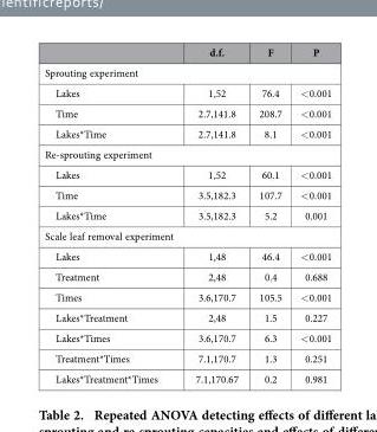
<table><thead><tr><td></td><td>d.f.</td><td>F</td><td>P</td></tr></thead><tbody><tr><td colspan="4">Sprouting experiment</td></tr><tr><td>Lakes</td><td>1,52</td><td>76.4</td><td>&lt; 0.001</td></tr><tr><td>Time</td><td>2.7,141.8</td><td>208.7</td><td>&lt; 0.001</td></tr><tr><td>Lakes*Time</td><td>2.7,141.8</td><td>8.1</td><td>&lt; 0.001</td></tr><tr><td colspan="4">Re-sprouting experiment</td></tr><tr><td>Lakes</td><td>1,52</td><td>60.1</td><td>&lt; 0.001</td></tr><tr><td>Time</td><td>3.5,182.3</td><td>107.7</td><td>&lt; 0.001</td></tr><tr><td>Lakes*Time</td><td>3.5,182.3</td><td>5.2</td><td>0.001</td></tr><tr><td colspan="4">Scale leaf removal experiment</td></tr><tr><td>Lakes</td><td>1,48</td><td>46.4</td><td>&lt; 0.001</td></tr><tr><td>Treatment</td><td>2,48</td><td>0.4</td><td>0.688</td></tr><tr><td>Times</td><td>3.6,170.7</td><td>105.5</td><td>&lt; 0.001</td></tr><tr><td>Lakes*Treatment</td><td>2,48</td><td>1.5</td><td>0.227</td></tr><tr><td>Lakes*Times</td><td>3.6,170.7</td><td>6.3</td><td>&lt; 0.001</td></tr><tr><td>Treatment*Times</td><td>7.1,170.7</td><td>1.3</td><td>0.251</td></tr><tr><td>Lakes*Treatment*Times</td><td>7.1,170.67</td><td>0.2</td><td>0.981</td></tr></tbody></table>